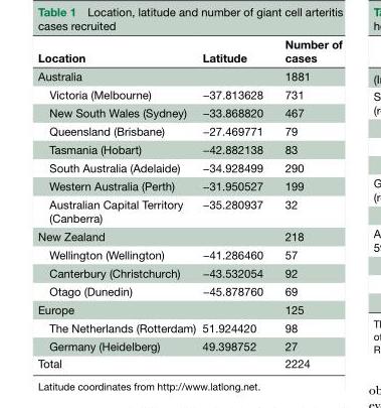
<table><thead><tr><td>Location</td><td>Latitude</td><td>Number of cases</td></tr></thead><tbody><tr><td>Australia</td><td></td><td>1881</td></tr><tr><td>Victoria (Melbourne)</td><td>−37.813628</td><td>731</td></tr><tr><td>New South Wales (Sydney)</td><td>−33.868820</td><td>467</td></tr><tr><td>Queensland (Brisbane)</td><td>−27.469771</td><td>79</td></tr><tr><td>Tasmania (Hobart)</td><td>−42.882138</td><td>83</td></tr><tr><td>South Australia (Adelaide)</td><td>−34.928499</td><td>290</td></tr><tr><td>Western Australia (Perth)</td><td>−31.950527</td><td>199</td></tr><tr><td>Australian Capital Territory (Canberra)</td><td>−35.280937</td><td>32</td></tr><tr><td>New Zealand</td><td></td><td>218</td></tr><tr><td>Wellington (Wellington)</td><td>−41.286460</td><td>57</td></tr><tr><td>Canterbury (Christchurch)</td><td>−43.532054</td><td>92</td></tr><tr><td>Otago (Dunedin)</td><td>−45.878760</td><td>69</td></tr><tr><td>Europe</td><td></td><td>125</td></tr><tr><td>The Netherlands (Rotterdam)</td><td>51.924420</td><td>98</td></tr><tr><td>Germany (Heidelberg)</td><td>49.398752</td><td>27</td></tr><tr><td>Total</td><td></td><td>2224</td></tr></tbody></table>